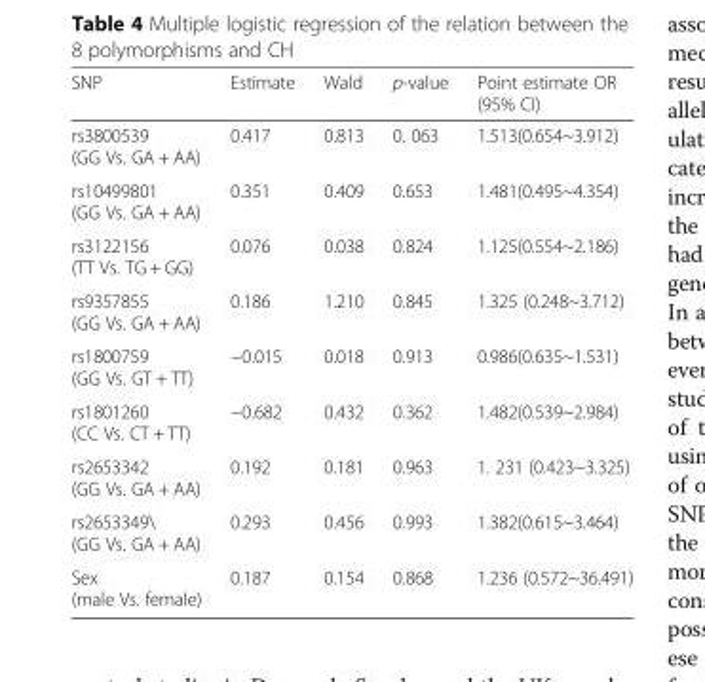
<table><thead><tr><td>SNP</td><td>Estimate</td><td>Wald</td><td>p-value</td><td>Point estimate OR (95% CI)</td></tr></thead><tbody><tr><td>rs3800539 (GG Vs. GA + AA)</td><td>0.417</td><td>0.813</td><td>0. 063</td><td>1.513(0.654~3.912)</td></tr><tr><td>rs10499801 (GG Vs. GA + AA)</td><td>0.351</td><td>0.409</td><td>0.653</td><td>1.481(0.495~4.354)</td></tr><tr><td>rs3122156 (TT Vs. TG + GG)</td><td>0.076</td><td>0.038</td><td>0.824</td><td>1.125(0.554~2.186)</td></tr><tr><td>rs9357855 (GG Vs. GA + AA)</td><td>0.186</td><td>1.210</td><td>0.845</td><td>1.325 (0.248~3.712)</td></tr><tr><td>rs1800759 (GG Vs. GT + TT)</td><td>−0.015</td><td>0.018</td><td>0.913</td><td>0.986(0.635~1.531)</td></tr><tr><td>rs1801260 (CC Vs. CT + TT)</td><td>−0.682</td><td>0.432</td><td>0.362</td><td>1.482(0.539~2.984)</td></tr><tr><td>rs2653342 (GG Vs. GA + AA)</td><td>0.192</td><td>0.181</td><td>0.963</td><td>1. 231 (0.423~3.325)</td></tr><tr><td>rs2653349\ (GG Vs. GA + AA)</td><td>0.293</td><td>0.456</td><td>0.993</td><td>1.382(0.615~3.464)</td></tr><tr><td>Sex (male Vs. female)</td><td>0.187</td><td>0.154</td><td>0.868</td><td>1.236 (0.572~36.491)</td></tr></tbody></table>